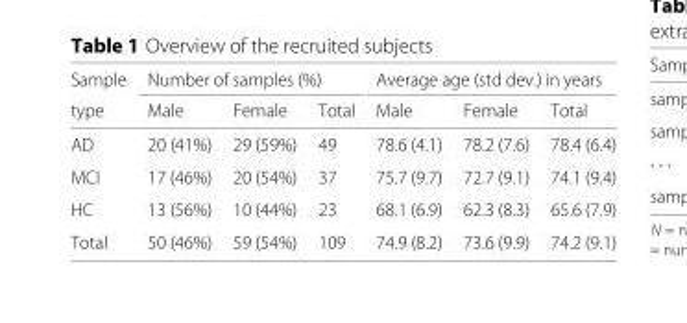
<table><thead><tr><td rowspan="2">Sample type</td><td colspan="3">Number of samples (%)</td><td colspan="3">Average age (std dev.) in years</td></tr><tr><td>Male</td><td>Female</td><td>Total</td><td>Male</td><td>Female</td><td>Total</td></tr></thead><tbody><tr><td>AD</td><td>20 (41%)</td><td>29 (59%)</td><td>49</td><td>78.6 (4.1)</td><td>78.2 (7.6)</td><td>78.4 (6.4)</td></tr><tr><td>MCI</td><td>17 (46%)</td><td>20 (54%)</td><td>37</td><td>75.7 (9.7)</td><td>72.7 (9.1)</td><td>74.1 (9.4)</td></tr><tr><td>HC</td><td>13 (56%)</td><td>10 (44%)</td><td>23</td><td>68.1 (6.9)</td><td>62.3 (8.3)</td><td>65.6 (7.9)</td></tr><tr><td>Total</td><td>50 (46%)</td><td>59 (54%)</td><td>109</td><td>74.9 (8.2)</td><td>73.6 (9.9)</td><td>74.2 (9.1)</td></tr></tbody></table>